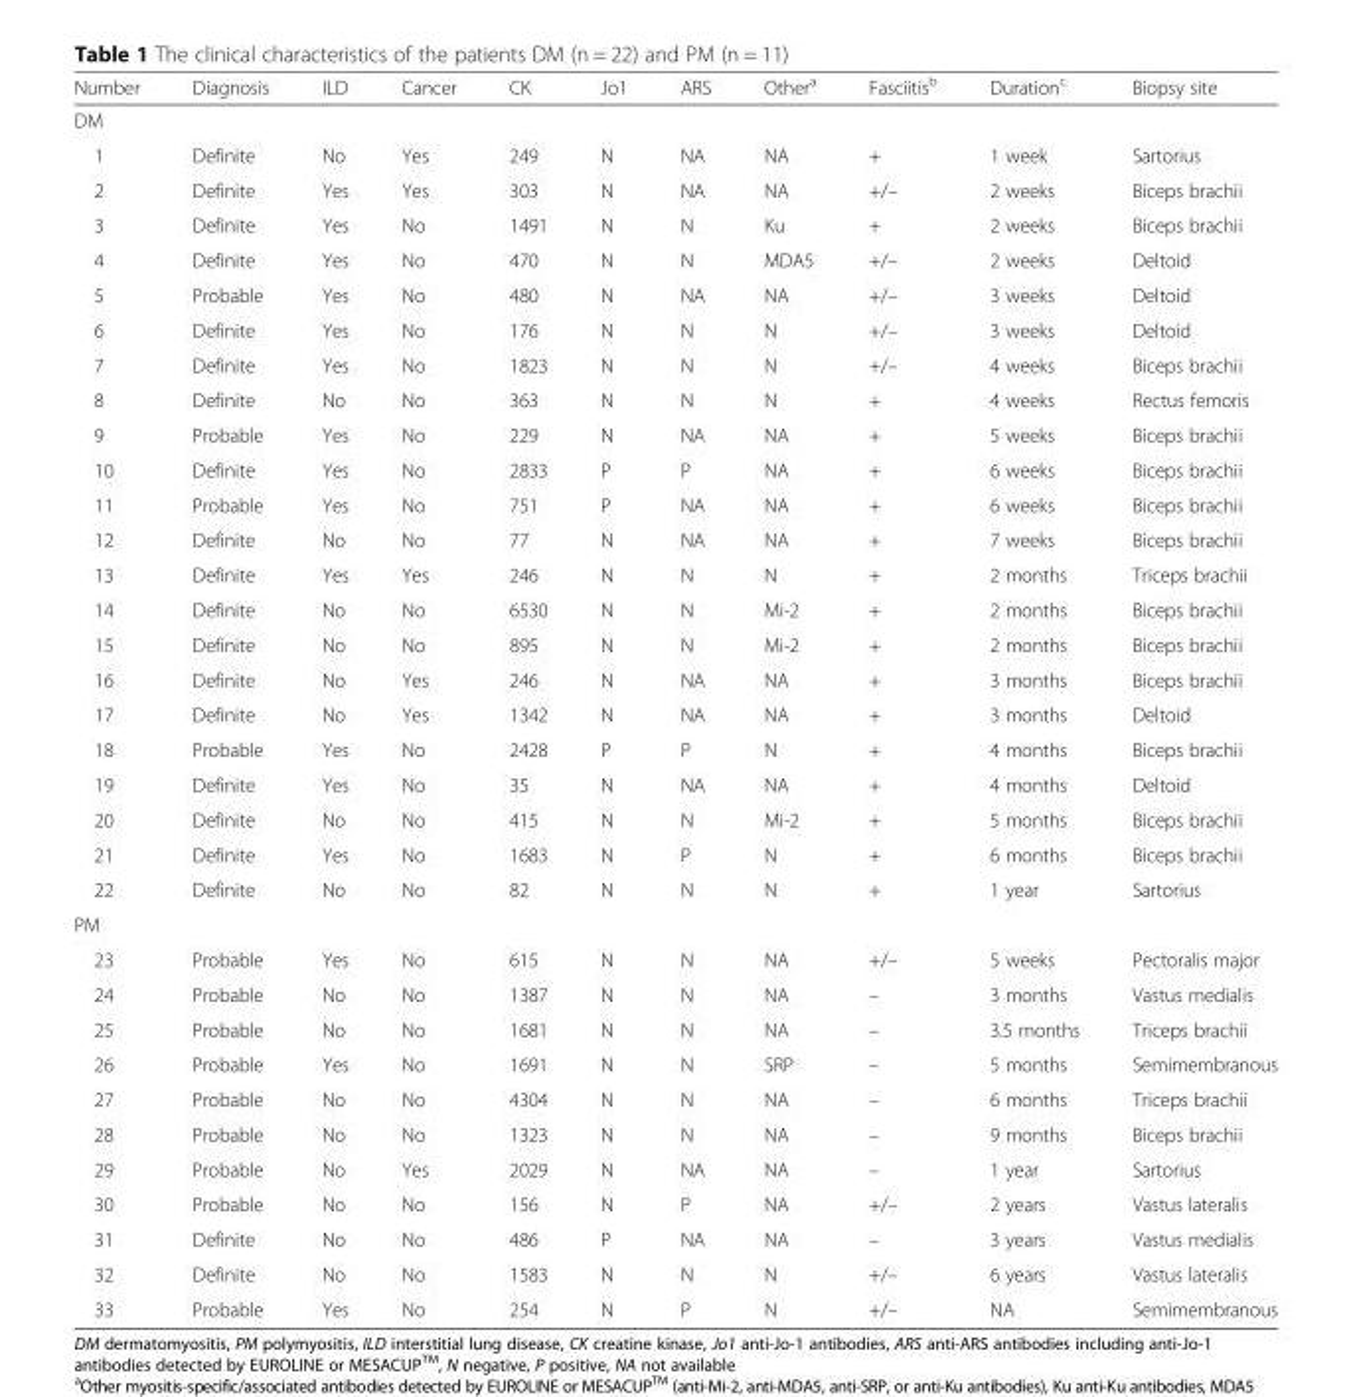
<table><thead><tr><td>Number</td><td>Diagnosis</td><td>ILD</td><td>Cancer</td><td>CK</td><td>Jo1</td><td>ARS</td><td>Other<sup>a</sup></td><td>Fasciitis<sup>b</sup></td><td>Duration<sup>c</sup></td><td>Biopsy site</td></tr></thead><tbody><tr><td colspan="11">DM</td></tr><tr><td>1</td><td>Definite</td><td>No</td><td>Yes</td><td>249</td><td>N</td><td>NA</td><td>NA</td><td>+</td><td>1 week</td><td>Sartorius</td></tr><tr><td>2</td><td>Definite</td><td>Yes</td><td>Yes</td><td>303</td><td>N</td><td>NA</td><td>NA</td><td>+/–</td><td>2 weeks</td><td>Biceps brachii</td></tr><tr><td>3</td><td>Definite</td><td>Yes</td><td>No</td><td>1491</td><td>N</td><td>N</td><td>Ku</td><td>+</td><td>2 weeks</td><td>Biceps brachii</td></tr><tr><td>4</td><td>Definite</td><td>Yes</td><td>No</td><td>470</td><td>N</td><td>N</td><td>MDA5</td><td>+/–</td><td>2 weeks</td><td>Deltoid</td></tr><tr><td>5</td><td>Probable</td><td>Yes</td><td>No</td><td>480</td><td>N</td><td>NA</td><td>NA</td><td>+/–</td><td>3 weeks</td><td>Deltoid</td></tr><tr><td>6</td><td>Definite</td><td>Yes</td><td>No</td><td>176</td><td>N</td><td>N</td><td>N</td><td>+/–</td><td>3 weeks</td><td>Deltoid</td></tr><tr><td>7</td><td>Definite</td><td>Yes</td><td>No</td><td>1823</td><td>N</td><td>N</td><td>N</td><td>+/–</td><td>4 weeks</td><td>Biceps brachii</td></tr><tr><td>8</td><td>Definite</td><td>No</td><td>No</td><td>363</td><td>N</td><td>N</td><td>N</td><td>+</td><td>4 weeks</td><td>Rectus femoris</td></tr><tr><td>9</td><td>Probable</td><td>Yes</td><td>No</td><td>229</td><td>N</td><td>NA</td><td>NA</td><td>+</td><td>5 weeks</td><td>Biceps brachii</td></tr><tr><td>10</td><td>Definite</td><td>Yes</td><td>No</td><td>2833</td><td>P</td><td>P</td><td>NA</td><td>+</td><td>6 weeks</td><td>Biceps brachii</td></tr><tr><td>11</td><td>Probable</td><td>Yes</td><td>No</td><td>751</td><td>P</td><td>NA</td><td>NA</td><td>+</td><td>6 weeks</td><td>Biceps brachii</td></tr><tr><td>12</td><td>Definite</td><td>No</td><td>No</td><td>77</td><td>N</td><td>NA</td><td>NA</td><td>+</td><td>7 weeks</td><td>Biceps brachii</td></tr><tr><td>13</td><td>Definite</td><td>Yes</td><td>Yes</td><td>246</td><td>N</td><td>N</td><td>N</td><td>+</td><td>2 months</td><td>Triceps brachii</td></tr><tr><td>14</td><td>Definite</td><td>No</td><td>No</td><td>6530</td><td>N</td><td>N</td><td>Mi-2</td><td>+</td><td>2 months</td><td>Biceps brachii</td></tr><tr><td>15</td><td>Definite</td><td>No</td><td>No</td><td>895</td><td>N</td><td>N</td><td>Mi-2</td><td>+</td><td>2 months</td><td>Biceps brachii</td></tr><tr><td>16</td><td>Definite</td><td>No</td><td>Yes</td><td>246</td><td>N</td><td>NA</td><td>NA</td><td>+</td><td>3 months</td><td>Biceps brachii</td></tr><tr><td>17</td><td>Definite</td><td>No</td><td>Yes</td><td>1342</td><td>N</td><td>NA</td><td>NA</td><td>+</td><td>3 months</td><td>Deltoid</td></tr><tr><td>18</td><td>Probable</td><td>Yes</td><td>No</td><td>2428</td><td>P</td><td>P</td><td>N</td><td>+</td><td>4 months</td><td>Biceps brachii</td></tr><tr><td>19</td><td>Definite</td><td>Yes</td><td>No</td><td>35</td><td>N</td><td>NA</td><td>NA</td><td>+</td><td>4 months</td><td>Deltoid</td></tr><tr><td>20</td><td>Definite</td><td>No</td><td>No</td><td>415</td><td>N</td><td>N</td><td>Mi-2</td><td>+</td><td>5 months</td><td>Biceps brachii</td></tr><tr><td>21</td><td>Definite</td><td>Yes</td><td>No</td><td>1683</td><td>N</td><td>P</td><td>N</td><td>+</td><td>6 months</td><td>Biceps brachii</td></tr><tr><td>22</td><td>Definite</td><td>No</td><td>No</td><td>82</td><td>N</td><td>N</td><td>N</td><td>+</td><td>1 year</td><td>Sartorius</td></tr><tr><td colspan="11">PM</td></tr><tr><td>23</td><td>Probable</td><td>Yes</td><td>No</td><td>615</td><td>N</td><td>N</td><td>NA</td><td>+/–</td><td>5 weeks</td><td>Pectoralis major</td></tr><tr><td>24</td><td>Probable</td><td>No</td><td>No</td><td>1387</td><td>N</td><td>N</td><td>NA</td><td>–</td><td>3 months</td><td>Vastus medialis</td></tr><tr><td>25</td><td>Probable</td><td>No</td><td>No</td><td>1681</td><td>N</td><td>N</td><td>NA</td><td>–</td><td>3.5 months</td><td>Triceps brachii</td></tr><tr><td>26</td><td>Probable</td><td>Yes</td><td>No</td><td>1691</td><td>N</td><td>N</td><td>SRP</td><td>–</td><td>5 months</td><td>Semimembranous</td></tr><tr><td>27</td><td>Probable</td><td>No</td><td>No</td><td>4304</td><td>N</td><td>N</td><td>NA</td><td>–</td><td>6 months</td><td>Triceps brachii</td></tr><tr><td>28</td><td>Probable</td><td>No</td><td>No</td><td>1323</td><td>N</td><td>N</td><td>NA</td><td>–</td><td>9 months</td><td>Biceps brachii</td></tr><tr><td>29</td><td>Probable</td><td>No</td><td>Yes</td><td>2029</td><td>N</td><td>NA</td><td>NA</td><td>–</td><td>1 year</td><td>Sartorius</td></tr><tr><td>30</td><td>Probable</td><td>No</td><td>No</td><td>156</td><td>N</td><td>P</td><td>NA</td><td>+/–</td><td>2 years</td><td>Vastus lateralis</td></tr><tr><td>31</td><td>Definite</td><td>No</td><td>No</td><td>486</td><td>P</td><td>NA</td><td>NA</td><td>–</td><td>3 years</td><td>Vastus medialis</td></tr><tr><td>32</td><td>Definite</td><td>No</td><td>No</td><td>1583</td><td>N</td><td>N</td><td>N</td><td>+/–</td><td>6 years</td><td>Vastus lateralis</td></tr><tr><td>33</td><td>Probable</td><td>Yes</td><td>No</td><td>254</td><td>N</td><td>P</td><td>N</td><td>+/–</td><td>NA</td><td>Semimembranous</td></tr></tbody></table>